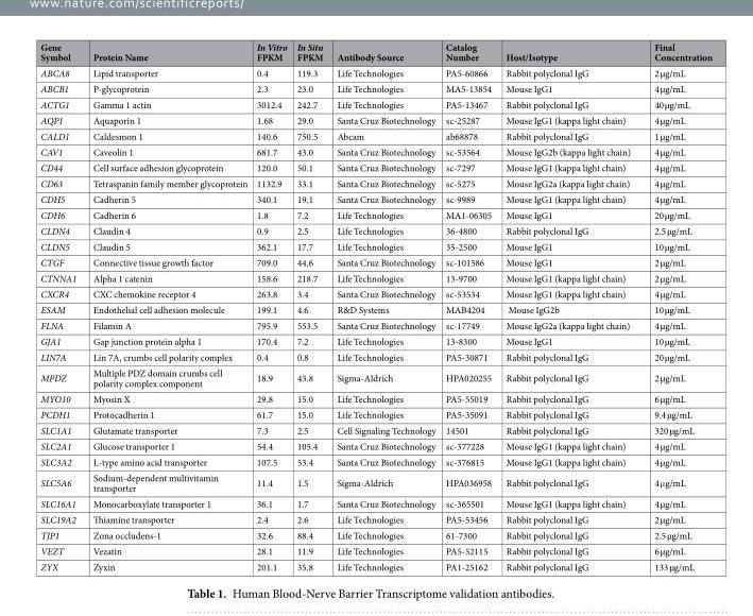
<table><thead><tr><td>Gene Symbol</td><td>Protein Name</td><td>In Vitro FPKM</td><td>In Situ FPKM</td><td>Antibody Source</td><td>Catalog Number</td><td>Host/Isotype</td><td>Final Concentration</td></tr></thead><tbody><tr><td>ABCA8</td><td>Lipid transporter</td><td>0.4</td><td>119.3</td><td>Life Technologies</td><td>PA5-60866</td><td>Rabbit polyclonal IgG</td><td>2 µg/mL</td></tr><tr><td>ABCB1</td><td>P-glycoprotein</td><td>2.3</td><td>23.0</td><td>Life Technologies</td><td>MA5-13854</td><td>Mouse IgG1</td><td>4 µg/mL</td></tr><tr><td>ACTG1</td><td>Gamma 1 actin</td><td>3012.4</td><td>242.7</td><td>Life Technologies</td><td>PA5-13467</td><td>Rabbit polyclonal IgG</td><td>40 µg/mL</td></tr><tr><td>AQP1</td><td>Aquaporin 1</td><td>1.68</td><td>29.0</td><td>Santa Cruz Biotechnology</td><td>sc-25287</td><td>Mouse IgG1 (kappa light chain)</td><td>4 µg/mL</td></tr><tr><td>CALD1</td><td>Caldesmon 1</td><td>140.6</td><td>750.5</td><td>Abcam</td><td>ab68878</td><td>Rabbit polyclonal IgG</td><td>1 µg/mL</td></tr><tr><td>CAV1</td><td>Caveolin 1</td><td>681.7</td><td>43.0</td><td>Santa Cruz Biotechnology</td><td>sc-53564</td><td>Mouse IgG2b (kappa light chain)</td><td>4 µg/mL</td></tr><tr><td>CD44</td><td>Cell surface adhesion glycoprotein</td><td>120.0</td><td>50.1</td><td>Santa Cruz Biotechnology</td><td>sc-7297</td><td>Mouse IgG1 (kappa light chain)</td><td>4 µg/mL</td></tr><tr><td>CD63</td><td>Tetraspanin family member glycoprotein</td><td>1132.9</td><td>33.1</td><td>Santa Cruz Biotechnology</td><td>sc-5275</td><td>Mouse IgG2a (kappa light chain)</td><td>4 µg/mL</td></tr><tr><td>CDH5</td><td>Cadherin 5</td><td>340.1</td><td>19.1</td><td>Santa Cruz Biotechnology</td><td>sc-9989</td><td>Mouse IgG1 (kappa light chain)</td><td>4 µg/mL</td></tr><tr><td>CDH6</td><td>Cadherin 6</td><td>1.8</td><td>7.2</td><td>Life Technologies</td><td>MA1-06305</td><td>Mouse IgG1</td><td>20 µg/mL</td></tr><tr><td>CLDN4</td><td>Claudin 4</td><td>0.9</td><td>2.5</td><td>Life Technologies</td><td>36-4800</td><td>Rabbit polyclonal IgG</td><td>2.5 µg/mL</td></tr><tr><td>CLDN5</td><td>Claudin 5</td><td>362.1</td><td>17.7</td><td>Life Technologies</td><td>35-2500</td><td>Mouse IgG1</td><td>10 µg/mL</td></tr><tr><td>CTGF</td><td>Connective tissue growth factor</td><td>709.0</td><td>44.6</td><td>Santa Cruz Biotechnology</td><td>sc-101586</td><td>Mouse IgG1</td><td>2 µg/mL</td></tr><tr><td>CTNNA1</td><td>Alpha 1 catenin</td><td>158.6</td><td>218.7</td><td>Life Technologies</td><td>13-9700</td><td>Mouse IgG1 (kappa light chain)</td><td>2 µg/mL</td></tr><tr><td>CXCR4</td><td>CXC chemokine receptor 4</td><td>263.8</td><td>3.4</td><td>Santa Cruz Biotechnology</td><td>sc-53534</td><td>Mouse IgG1 (kappa light chain)</td><td>4 µg/mL</td></tr><tr><td>ESAM</td><td>Endothelial cell adhesion molecule</td><td>199.1</td><td>4.6</td><td>R&amp;D Systems</td><td>MAB4204</td><td>Mouse IgG2b</td><td>10 µg/mL</td></tr><tr><td>FLNA</td><td>Filamin A</td><td>795.9</td><td>553.5</td><td>Santa Cruz Biotechnology</td><td>sc-17749</td><td>Mouse IgG2a (kappa light chain)</td><td>4 µg/mL</td></tr><tr><td>GJA1</td><td>Gap junction protein alpha 1</td><td>170.4</td><td>7.2</td><td>Life Technologies</td><td>13-8300</td><td>Mouse IgG1</td><td>10 µg/mL</td></tr><tr><td>LIN7A</td><td>Lin 7A, crumbs cell polarity complex</td><td>0.4</td><td>0.8</td><td>Life Technologies</td><td>PA5-30871</td><td>Rabbit polyclonal IgG</td><td>20 µg/mL</td></tr><tr><td>MPDZ</td><td>Multiple PDZ domain crumbs cell polarity complex component</td><td>18.9</td><td>43.8</td><td>Sigma-Aldrich</td><td>HPA020255</td><td>Rabbit polyclonal IgG</td><td>2 µg/mL</td></tr><tr><td>MYO10</td><td>Myosin X</td><td>29.8</td><td>15.0</td><td>Life Technologies</td><td>PA5-55019</td><td>Rabbit polyclonal IgG</td><td>6 µg/mL</td></tr><tr><td>PCDH1</td><td>Protocadherin 1</td><td>61.7</td><td>15.0</td><td>Life Technologies</td><td>PA5-35091</td><td>Rabbit polyclonal IgG</td><td>9.4 µg/mL</td></tr><tr><td>SLC1A1</td><td>Glutamate transporter</td><td>7.3</td><td>2.5</td><td>Cell Signaling Technology</td><td>14501</td><td>Rabbit polyclonal IgG</td><td>320 µg/mL</td></tr><tr><td>SLC2A1</td><td>Glucose transporter 1</td><td>54.4</td><td>105.4</td><td>Santa Cruz Biotechnology</td><td>sc-377228</td><td>Mouse IgG1 (kappa light chain)</td><td>4 µg/mL</td></tr><tr><td>SLC3A2</td><td>L-type amino acid transporter</td><td>107.5</td><td>53.4</td><td>Santa Cruz Biotechnology</td><td>sc-376815</td><td>Mouse IgG1 (kappa light chain)</td><td>4 µg/mL</td></tr><tr><td>SLC5A6</td><td>Sodium-dependent multivitamin transporter</td><td>11.4</td><td>1.5</td><td>Sigma-Aldrich</td><td>HPA036958</td><td>Rabbit polyclonal IgG</td><td>4 μg/mL</td></tr><tr><td>SLC16A1</td><td>Monocarboxylate transporter 1</td><td>36.1</td><td>1.7</td><td>Santa Cruz Biotechnology</td><td>sc-365501</td><td>Mouse IgG1 (kappa light chain)</td><td>4 µg/mL</td></tr><tr><td>SLC19A2</td><td>Thiamine transporter</td><td>2.4</td><td>2.6</td><td>Life Technologies</td><td>PA5-53456</td><td>Rabbit polyclonal IgG</td><td>2 µg/mL</td></tr><tr><td>TJP1</td><td>Zona occludens-1</td><td>32.6</td><td>88.4</td><td>Life Technologies</td><td>61-7300</td><td>Rabbit polyclonal IgG</td><td>2.5 µg/mL</td></tr><tr><td>VEZT</td><td>Vezatin</td><td>28.1</td><td>11.9</td><td>Life Technologies</td><td>PA5-52115</td><td>Rabbit polyclonal IgG</td><td>6 µg/mL</td></tr><tr><td>ZYX</td><td>Zyxin</td><td>201.1</td><td>35.8</td><td>Life Technologies</td><td>PA1-25162</td><td>Rabbit polyclonal IgG</td><td>133 µg/mL</td></tr></tbody></table>